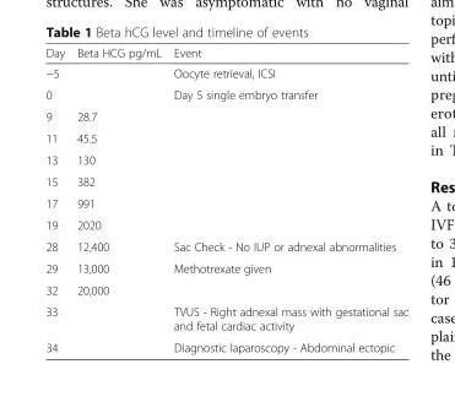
<table><thead><tr><td>Day</td><td>Beta HCG pg/mL</td><td>Event</td></tr></thead><tbody><tr><td>−5</td><td></td><td>Oocyte retrieval, ICSI</td></tr><tr><td>0</td><td></td><td>Day 5 single embryo transfer</td></tr><tr><td>9</td><td>28.7</td><td></td></tr><tr><td>11</td><td>45.5</td><td></td></tr><tr><td>13</td><td>130</td><td></td></tr><tr><td>15</td><td>382</td><td></td></tr><tr><td>17</td><td>991</td><td></td></tr><tr><td>19</td><td>2020</td><td></td></tr><tr><td>28</td><td>12,400</td><td>Sac Check - No IUP or adnexal abnormalities</td></tr><tr><td>29</td><td>13,000</td><td>Methotrexate given</td></tr><tr><td>32</td><td>20,000</td><td></td></tr><tr><td>33</td><td></td><td>TVUS - Right adnexal mass with gestational sac and fetal cardiac activity</td></tr><tr><td>34</td><td></td><td>Diagnostic laparoscopy - Abdominal ectopic</td></tr></tbody></table>